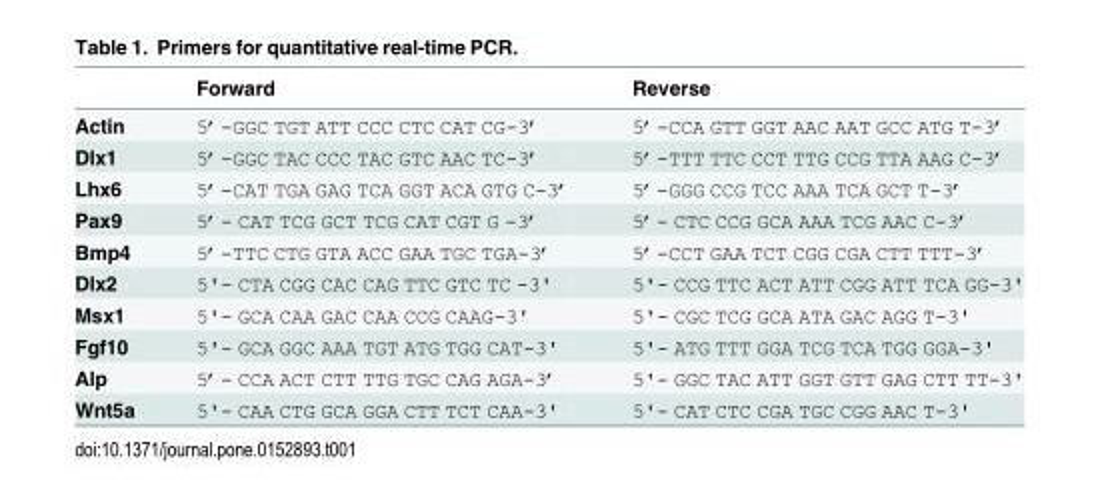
<table><thead><tr><td></td><td>Forward</td><td>Reverse</td></tr></thead><tbody><tr><td>Actin</td><td>5’-GGC TGT ATT CCC CTC CAT CG-3’</td><td>5’-CCA GTT GGT AAC AAT GCC ATG T-3’</td></tr><tr><td>Dlx1</td><td>5’-GGC TAC CCC TAC GTC AAC TC-3’</td><td>5’-TTT TTC CCT TTG CCG TTA AAG C-3’</td></tr><tr><td>Lhx6</td><td>5’-CAT TGA GAG TCA GGT ACA GTG C-3’</td><td>5’-GGG CCG TCC AAA TCA GCT T-3’</td></tr><tr><td>Pax9</td><td>5’- CAT TCG GCT TCG CAT CGT G -3’</td><td>5’- CTC CCG GCA AAA TCG AAC C-3’</td></tr><tr><td>Bmp4</td><td>5’-TTC CTG GTA ACC GAA TGC TGA-3’</td><td>5’-CCT GAA TCT CGG CGA CTT TTT-3’</td></tr><tr><td>Dlx2</td><td>5&#x27;- CTA CGG CAC CAG TTC GTC TC -3&#x27;</td><td>5&#x27;- CCG TTC ACT ATT CGG ATT TCA GG-3&#x27;</td></tr><tr><td>Msx1</td><td>5&#x27;- GCA CAA GAC CAA CCG CAAG-3&#x27;</td><td>5&#x27;- CGC TCG GCA ATA GAC AGG T-3&#x27;</td></tr><tr><td>Fgf10</td><td>5&#x27;- GCA GGC AAA TGT ATG TGG CAT-3&#x27;</td><td>5&#x27;- ATG TTT GGA TCG TCA TGG GGA-3&#x27;</td></tr><tr><td>Alp</td><td>5’- CCA ACT CTT TTG TGC CAG AGA-3’</td><td>5&#x27;- GGC TAC ATT GGT GTT GAG CTT TT-3&#x27;</td></tr><tr><td>Wnt5a</td><td>5&#x27;- CAA CTG GCA GGA CTT TCT CAA-3&#x27;</td><td>5&#x27;- CAT CTC CGA TGC CGG AAC T-3&#x27;</td></tr></tbody></table>